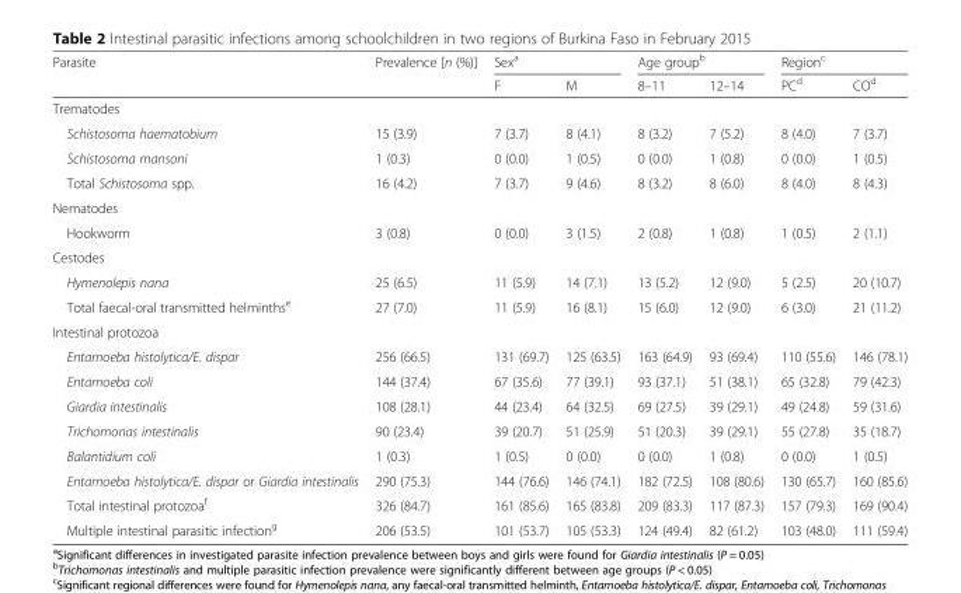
<table><thead><tr><td rowspan="2">Parasite</td><td rowspan="2">Prevalence [n (%)]</td><td colspan="2">Sex<sup>a</sup></td><td colspan="2">Age group<sup>b</sup></td><td colspan="2">Region<sup>c</sup></td></tr><tr><td>F</td><td>M</td><td>8–11</td><td>12–14</td><td>PC<sup>d</sup></td><td>CO<sup>d</sup></td></tr></thead><tbody><tr><td colspan="8">Trematodes</td></tr><tr><td>Schistosoma haematobium</td><td>15 (3.9)</td><td>7 (3.7)</td><td>8 (4.1)</td><td>8 (3.2)</td><td>7 (5.2)</td><td>8 (4.0)</td><td>7 (3.7)</td></tr><tr><td>Schistosoma mansoni</td><td>1 (0.3)</td><td>0 (0.0)</td><td>1 (0.5)</td><td>0 (0.0)</td><td>1 (0.8)</td><td>0 (0.0)</td><td>1 (0.5)</td></tr><tr><td>Total Schistosoma spp.</td><td>16 (4.2)</td><td>7 (3.7)</td><td>9 (4.6)</td><td>8 (3.2)</td><td>8 (6.0)</td><td>8 (4.0)</td><td>8 (4.3)</td></tr><tr><td colspan="8">Nematodes</td></tr><tr><td>Hookworm</td><td>3 (0.8)</td><td>0 (0.0)</td><td>3 (1.5)</td><td>2 (0.8)</td><td>1 (0.8)</td><td>1 (0.5)</td><td>2 (1.1)</td></tr><tr><td colspan="8">Cestodes</td></tr><tr><td>Hymenolepis nana</td><td>25 (6.5)</td><td>11 (5.9)</td><td>14 (7.1)</td><td>13 (5.2)</td><td>12 (9.0)</td><td>5 (2.5)</td><td>20 (10.7)</td></tr><tr><td>Total faecal-oral transmitted helminths<sup>e</sup></td><td>27 (7.0)</td><td>11 (5.9)</td><td>16 (8.1)</td><td>15 (6.0)</td><td>12 (9.0)</td><td>6 (3.0)</td><td>21 (11.2)</td></tr><tr><td colspan="8">Intestinal protozoa</td></tr><tr><td>Entamoeba histolytica/E. dispar</td><td>256 (66.5)</td><td>131 (69.7)</td><td>125 (63.5)</td><td>163 (64.9)</td><td>93 (69.4)</td><td>110 (55.6)</td><td>146 (78.1)</td></tr><tr><td>Entamoeba coli</td><td>144 (37.4)</td><td>67 (35.6)</td><td>77 (39.1)</td><td>93 (37.1)</td><td>51 (38.1)</td><td>65 (32.8)</td><td>79 (42.3)</td></tr><tr><td>Giardia intestinalis</td><td>108 (28.1)</td><td>44 (23.4)</td><td>64 (32.5)</td><td>69 (27.5)</td><td>39 (29.1)</td><td>49 (24.8)</td><td>59 (31.6)</td></tr><tr><td>Trichomonas intestinalis</td><td>90 (23.4)</td><td>39 (20.7)</td><td>51 (25.9)</td><td>51 (20.3)</td><td>39 (29.1)</td><td>55 (27.8)</td><td>35 (18.7)</td></tr><tr><td>Balantidium coli</td><td>1 (0.3)</td><td>1 (0.5)</td><td>0 (0.0)</td><td>0 (0.0)</td><td>1 (0.8)</td><td>0 (0.0)</td><td>1 (0.5)</td></tr><tr><td>Entamoeba histolytica/E. dispar or Giardia intestinalis</td><td>290 (75.3)</td><td>144 (76.6)</td><td>146 (74.1)</td><td>182 (72.5)</td><td>108 (80.6)</td><td>130 (65.7)</td><td>160 (85.6)</td></tr><tr><td>Total intestinal protozoa<sup>f</sup></td><td>326 (84.7)</td><td>161 (85.6)</td><td>165 (83.8)</td><td>209 (83.3)</td><td>117 (87.3)</td><td>157 (79.3)</td><td>169 (90.4)</td></tr><tr><td>Multiple intestinal parasitic infection<sup>g</sup></td><td>206 (53.5)</td><td>101 (53.7)</td><td>105 (53.3)</td><td>124 (49.4)</td><td>82 (61.2)</td><td>103 (48.0)</td><td>111 (59.4)</td></tr></tbody></table>